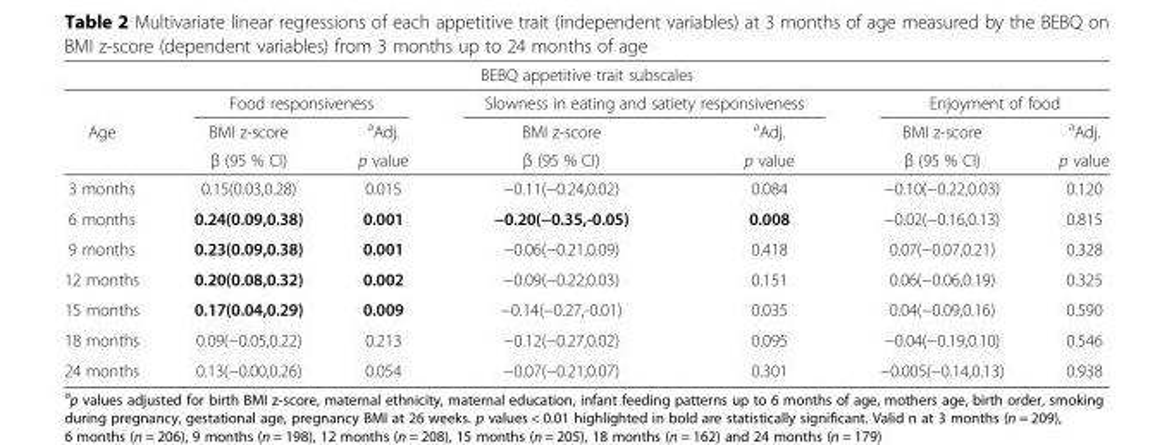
<table><thead><tr><td colspan="7">BEBQ appetitive trait subscales</td></tr><tr><td rowspan="3">Age</td><td colspan="2">Food responsiveness</td><td colspan="2">Slowness in eating and satiety responsiveness</td><td colspan="2">Enjoyment of food</td></tr><tr><td rowspan="2">BMI z-score β (95 % CI)</td><td rowspan="2"><sup>a</sup>Adj. p value</td><td rowspan="2">BMI z-score β (95 % CI)</td><td rowspan="2"><sup>a</sup>Adj. p value</td><td rowspan="2">BMI z-score β (95 % CI)</td><td rowspan="2"><sup>a</sup>Adj. p value</td></tr><tr></tr></thead><tbody><tr><td>3 months</td><td>0.15(0.03,0.28)</td><td>0.015</td><td>−0.11(−0.24,0.02)</td><td>0.084</td><td>−0.10(−0.22,0.03)</td><td>0.120</td></tr><tr><td>6 months</td><td>0.24(0.09,0.38)</td><td>0.001</td><td>−0.20(−0.35,-0.05)</td><td>0.008</td><td>−0.02(−0.16,0.13)</td><td>0.815</td></tr><tr><td>9 months</td><td>0.23(0.09,0.38)</td><td>0.001</td><td>−0.06(−0.21,0.09)</td><td>0.418</td><td>0.07(−0.07,0.21)</td><td>0.328</td></tr><tr><td>12 months</td><td>0.20(0.08,0.32)</td><td>0.002</td><td>−0.09(−0.22,0.03)</td><td>0.151</td><td>0.06(−0.06,0.19)</td><td>0.325</td></tr><tr><td>15 months</td><td>0.17(0.04,0.29)</td><td>0.009</td><td>−0.14(−0.27,-0.01)</td><td>0.035</td><td>0.04(−0.09,0.16)</td><td>0.590</td></tr><tr><td>18 months</td><td>0.09(−0.05,0.22)</td><td>0.213</td><td>−0.12(−0.27,0.02)</td><td>0.095</td><td>−0.04(−0.19,0.10)</td><td>0.546</td></tr><tr><td>24 months</td><td>0.13(−0.00,0.26)</td><td>0.054</td><td>−0.07(−0.21,0.07)</td><td>0.301</td><td>−0.005(−0.14,0.13)</td><td>0.938</td></tr></tbody></table>